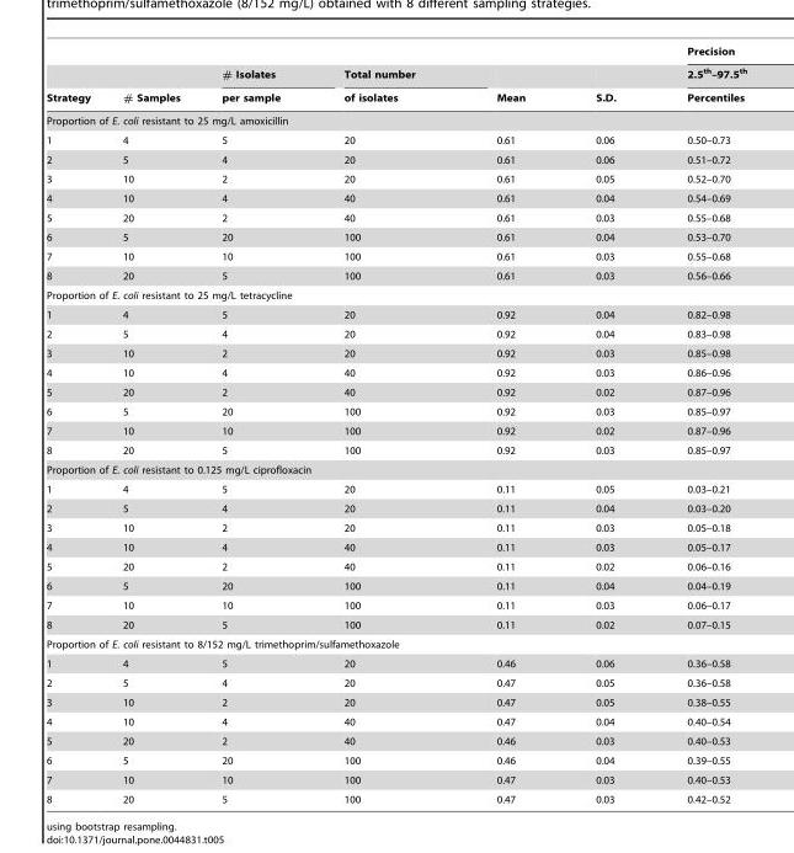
<table><thead><tr><td rowspan="3">Strategy</td><td rowspan="3"># Samples</td><td rowspan="3"># Isolates per sample</td><td rowspan="3">Total number of isolates</td><td rowspan="3">Mean</td><td rowspan="3">S.D.</td><td rowspan="3">Precision 2.5<sup>th</sup>–97.5<sup>th</sup> Percentiles</td></tr><tr></tr><tr></tr></thead><tbody><tr><td colspan="7">Proportion of E. coli resistant to 25 mg/L amoxicillin</td></tr><tr><td>1</td><td>4</td><td>5</td><td>20</td><td>0.61</td><td>0.06</td><td>0.50–0.73</td></tr><tr><td>2</td><td>5</td><td>4</td><td>20</td><td>0.61</td><td>0.06</td><td>0.51–0.72</td></tr><tr><td>3</td><td>10</td><td>2</td><td>20</td><td>0.61</td><td>0.05</td><td>0.52–0.70</td></tr><tr><td>4</td><td>10</td><td>4</td><td>40</td><td>0.61</td><td>0.04</td><td>0.54–0.69</td></tr><tr><td>5</td><td>20</td><td>2</td><td>40</td><td>0.61</td><td>0.03</td><td>0.55–0.68</td></tr><tr><td>6</td><td>5</td><td>20</td><td>100</td><td>0.61</td><td>0.04</td><td>0.53–0.70</td></tr><tr><td>7</td><td>10</td><td>10</td><td>100</td><td>0.61</td><td>0.03</td><td>0.55–0.68</td></tr><tr><td>8</td><td>20</td><td>5</td><td>100</td><td>0.61</td><td>0.03</td><td>0.56–0.66</td></tr><tr><td colspan="7">Proportion of E. coli resistant to 25 mg/L tetracycline</td></tr><tr><td>1</td><td>4</td><td>5</td><td>20</td><td>0.92</td><td>0.04</td><td>0.82–0.98</td></tr><tr><td>2</td><td>5</td><td>4</td><td>20</td><td>0.92</td><td>0.04</td><td>0.83–0.98</td></tr><tr><td>3</td><td>10</td><td>2</td><td>20</td><td>0.92</td><td>0.03</td><td>0.85–0.98</td></tr><tr><td>4</td><td>10</td><td>4</td><td>40</td><td>0.92</td><td>0.03</td><td>0.86–0.96</td></tr><tr><td>5</td><td>20</td><td>2</td><td>40</td><td>0.92</td><td>0.02</td><td>0.87–0.96</td></tr><tr><td>6</td><td>5</td><td>20</td><td>100</td><td>0.92</td><td>0.03</td><td>0.85–0.97</td></tr><tr><td>7</td><td>10</td><td>10</td><td>100</td><td>0.92</td><td>0.02</td><td>0.87–0.96</td></tr><tr><td>8</td><td>20</td><td>5</td><td>100</td><td>0.92</td><td>0.03</td><td>0.85–0.97</td></tr><tr><td colspan="7">Proportion of E. coli resistant to 0.125 mg/L ciprofloxacin</td></tr><tr><td>1</td><td>4</td><td>5</td><td>20</td><td>0.11</td><td>0.05</td><td>0.03–0.21</td></tr><tr><td>2</td><td>5</td><td>4</td><td>20</td><td>0.11</td><td>0.04</td><td>0.03–0.20</td></tr><tr><td>3</td><td>10</td><td>2</td><td>20</td><td>0.11</td><td>0.03</td><td>0.05–0.18</td></tr><tr><td>4</td><td>10</td><td>4</td><td>40</td><td>0.11</td><td>0.03</td><td>0.05–0.17</td></tr><tr><td>5</td><td>20</td><td>2</td><td>40</td><td>0.11</td><td>0.02</td><td>0.06–0.16</td></tr><tr><td>6</td><td>5</td><td>20</td><td>100</td><td>0.11</td><td>0.04</td><td>0.04–0.19</td></tr><tr><td>7</td><td>10</td><td>10</td><td>100</td><td>0.11</td><td>0.03</td><td>0.06–0.17</td></tr><tr><td>8</td><td>20</td><td>5</td><td>100</td><td>0.11</td><td>0.02</td><td>0.07–0.15</td></tr><tr><td colspan="7">Proportion of E. coli resistant to 8/152 mg/L trimethoprim/sulfamethoxazole</td></tr><tr><td>1</td><td>4</td><td>5</td><td>20</td><td>0.46</td><td>0.06</td><td>0.36–0.58</td></tr><tr><td>2</td><td>5</td><td>4</td><td>20</td><td>0.47</td><td>0.05</td><td>0.36–0.58</td></tr><tr><td>3</td><td>10</td><td>2</td><td>20</td><td>0.47</td><td>0.05</td><td>0.38–0.55</td></tr><tr><td>4</td><td>10</td><td>4</td><td>40</td><td>0.47</td><td>0.04</td><td>0.40–0.54</td></tr><tr><td>5</td><td>20</td><td>2</td><td>40</td><td>0.46</td><td>0.03</td><td>0.40–0.53</td></tr><tr><td>6</td><td>5</td><td>20</td><td>100</td><td>0.46</td><td>0.04</td><td>0.39–0.55</td></tr><tr><td>7</td><td>10</td><td>10</td><td>100</td><td>0.47</td><td>0.03</td><td>0.40–0.53</td></tr><tr><td>8</td><td>20</td><td>5</td><td>100</td><td>0.47</td><td>0.03</td><td>0.42–0.52</td></tr></tbody></table>